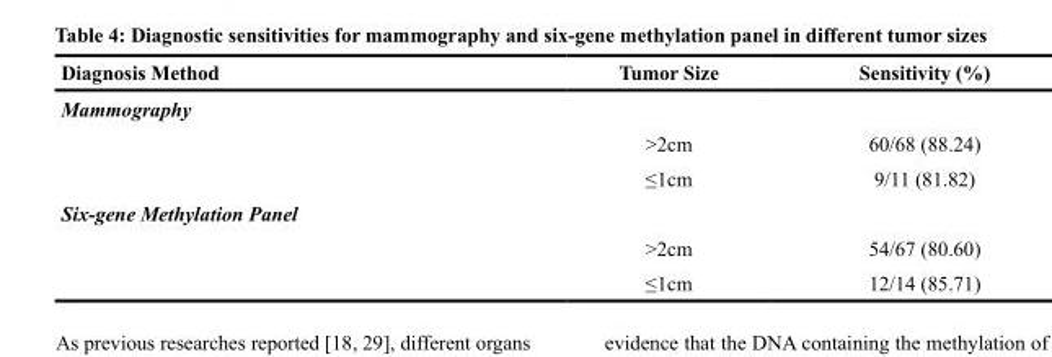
<table><thead><tr><td>Diagnosis Method</td><td>Tumor Size</td><td>Sensitivity (%)</td></tr></thead><tbody><tr><td colspan="3">Mammography</td></tr><tr><td></td><td>&gt;2cm</td><td>60/68 (88.24)</td></tr><tr><td></td><td>≤1cm</td><td>9/11 (81.82)</td></tr><tr><td colspan="3">Six-gene Methylation Panel</td></tr><tr><td></td><td>&gt;2cm</td><td>54/67 (80.60)</td></tr><tr><td></td><td>≤1cm</td><td>12/14 (85.71)</td></tr></tbody></table>